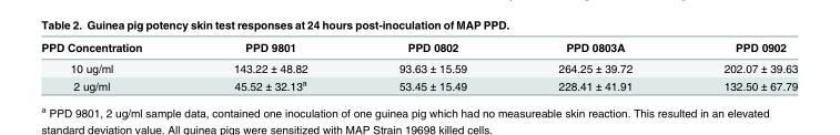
<table><thead><tr><td>PPD Concentration</td><td>PPD 9801</td><td>PPD 0802</td><td>PPD 0803A</td><td>PPD 0902</td></tr></thead><tbody><tr><td>10 ug/ml</td><td>143.22 ± 48.82</td><td>93.63 ± 15.59</td><td>264.25 ± 39.72</td><td>202.07 ± 39.63</td></tr><tr><td>2 ug/ml</td><td>45.52 ± 32.13<sup>a</sup></td><td>53.45 ± 15.49</td><td>228.41 ± 41.91</td><td>132.50 ± 67.79</td></tr></tbody></table>